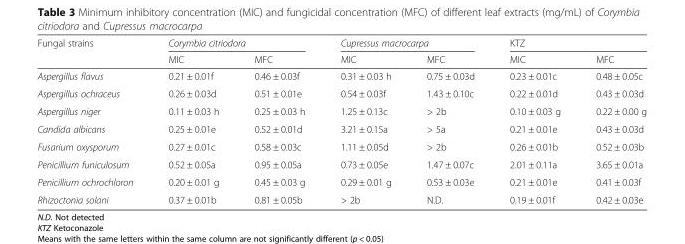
<table><thead><tr><td rowspan="2">Fungal strains</td><td colspan="2">Corymbia citriodora</td><td colspan="2">Cupressus macrocarpa</td><td colspan="2">KTZ</td></tr><tr><td>MIC</td><td>MFC</td><td>MIC</td><td>MFC</td><td>MIC</td><td>MFC</td></tr></thead><tbody><tr><td>Aspergillus flavus</td><td>0.21 ± 0.01f</td><td>0.46 ± 0.03f</td><td>0.31 ± 0.03 h</td><td>0.75 ± 0.03d</td><td>0.23 ± 0.01c</td><td>0.48 ± 0.05c</td></tr><tr><td>Aspergillus ochraceus</td><td>0.26 ± 0.03d</td><td>0.51 ± 0.01e</td><td>0.54 ± 0.03f</td><td>1.43 ± 0.10c</td><td>0.22 ± 0.01d</td><td>0.43 ± 0.03d</td></tr><tr><td>Aspergillus niger</td><td>0.11 ± 0.03 h</td><td>0.25 ± 0.03 h</td><td>1.25 ± 0.13c</td><td>&gt; 2b</td><td>0.10 ± 0.03 g</td><td>0.22 ± 0.00 g</td></tr><tr><td>Candida albicans</td><td>0.25 ± 0.01e</td><td>0.52 ± 0.01d</td><td>3.21 ± 0.15a</td><td>&gt; 5a</td><td>0.21 ± 0.01e</td><td>0.43 ± 0.03d</td></tr><tr><td>Fusarium oxysporum</td><td>0.27 ± 0.01c</td><td>0.58 ± 0.03c</td><td>1.11 ± 0.05d</td><td>&gt; 2b</td><td>0.26 ± 0.01b</td><td>0.52 ± 0.03b</td></tr><tr><td>Penicillium funiculosum</td><td>0.52 ± 0.05a</td><td>0.95 ± 0.05a</td><td>0.73 ± 0.05e</td><td>1.47 ± 0.07c</td><td>2.01 ± 0.11a</td><td>3.65 ± 0.01a</td></tr><tr><td>Penicillium ochrochloron</td><td>0.20 ± 0.01 g</td><td>0.45 ± 0.03 g</td><td>0.29 ± 0.01 g</td><td>0.53 ± 0.03e</td><td>0.21 ± 0.01e</td><td>0.41 ± 0.03f</td></tr><tr><td>Rhizoctonia solani</td><td>0.37 ± 0.01b</td><td>0.81 ± 0.05b</td><td>&gt; 2b</td><td>N.D.</td><td>0.19 ± 0.01f</td><td>0.42 ± 0.03e</td></tr></tbody></table>